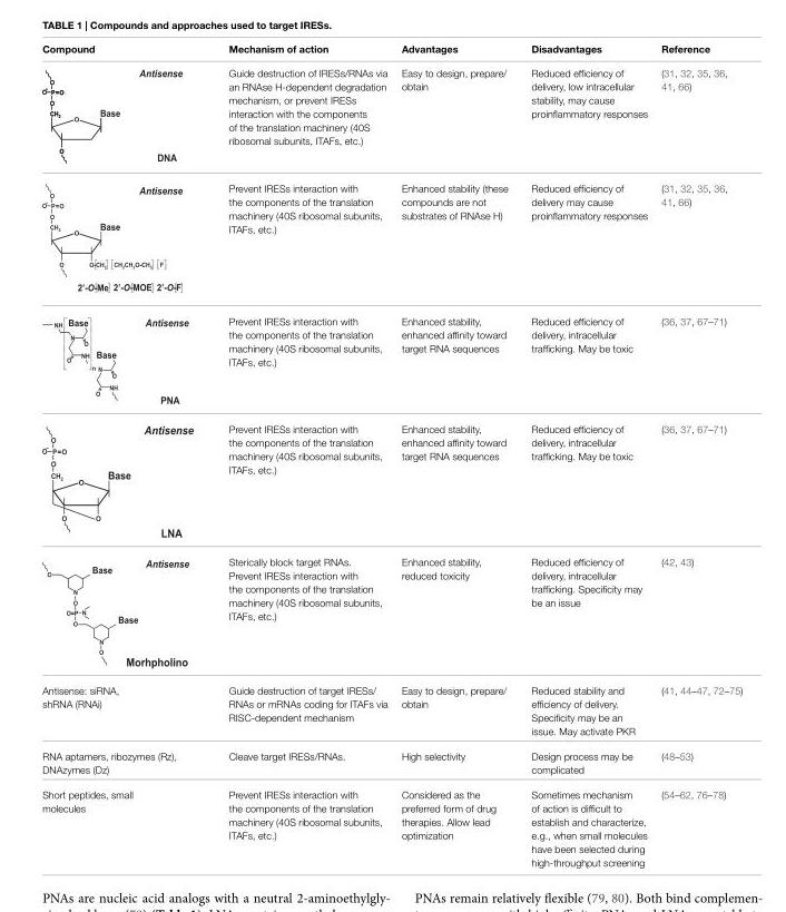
<table><thead><tr><td>Compound</td><td>Mechanism of action</td><td>Advantages</td><td>Disadvantages</td><td>Reference</td></tr></thead><tbody><tr><td></td><td>Guide destruction of IRESs/RNAs via an RNAse H-dependent degradation mechanism, or prevent IRESs interaction with the components of the translation machinery (40S ribosomal subunits, ITAFs, etc.)</td><td>Easy to design, prepare/ obtain</td><td>Reduced efficiency of delivery, low intracellular stability, may cause proinflammatory responses</td><td>(31, 32, 35, 36, 41, 66)</td></tr><tr><td></td><td>Prevent IRESs interaction with the components of the translation machinery (40S ribosomal subunits, ITAFs, etc.)</td><td>Enhanced stability (these compounds are not substrates of RNAse H)</td><td>Reduced efficiency of delivery may cause proinflammatory responses</td><td>(31, 32, 35, 36, 41, 66)</td></tr><tr><td></td><td>Prevent IRESs interaction with the components of the translation machinery (40S ribosomal subunits, ITAFs, etc.)</td><td>Enhanced stability, enhanced affinity toward target RNA sequences</td><td>Reduced efficiency of delivery, intracellular trafficking. May be toxic</td><td>(36, 37, 67–71)</td></tr><tr><td></td><td>Prevent IRESs interaction with the components of the translation machinery (40S ribosomal subunits, ITAFs, etc.)</td><td>Enhanced stability, enhanced affinity toward target RNA sequences</td><td>Reduced efficiency of delivery, intracellular trafficking. May be toxic</td><td>(36, 37, 67–71)</td></tr><tr><td></td><td>Sterically block target RNAs. Prevent IRESs interaction with the components of the translation machinery (40S ribosomal subunits, ITAFs, etc.)</td><td>Enhanced stability, reduced toxicity</td><td>Reduced efficiency of delivery, intracellular trafficking. Specificity may be an issue</td><td>(42, 43)</td></tr><tr><td>Antisense: siRNA, shRNA (RNAi)</td><td>Guide destruction of target IRESs/ RNAs or mRNAs coding for ITAFs via RISC-dependent mechanism</td><td>Easy to design, prepare/ obtain</td><td>Reduced stability and efficiency of delivery. Specificity may be an issue. May activate PKR</td><td>(41, 44–47, 72–75)</td></tr><tr><td>RNA aptamers, ribozymes (Rz), DNAzymes (Dz)</td><td>Cleave target IRESs/RNAs.</td><td>High selectivity</td><td>Design process may be complicated</td><td>(48–53)</td></tr><tr><td>Short peptides, small molecules</td><td>Prevent IRESs interaction with the components of the translation machinery (40S ribosomal subunits, ITAFs, etc.)</td><td>Considered as the preferred form of drug therapies. Allow lead optimization</td><td>Sometimes mechanism of action is difficult to establish and characterize, e.g., when small molecules have been selected during high-throughput screening</td><td>(54–62, 76–78)</td></tr></tbody></table>